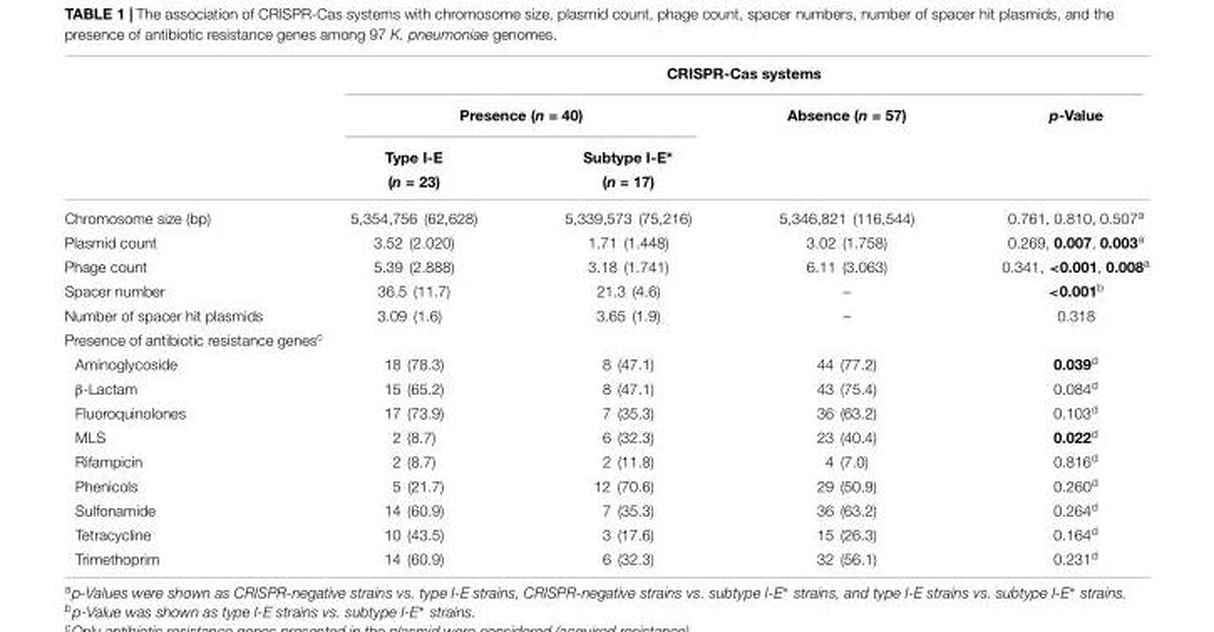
<table><thead><tr><td rowspan="4"></td><td colspan="4">CRISPR-Cas systems</td></tr><tr><td colspan="2">Presence (n = 40)</td><td rowspan="3">Absence (n = 57)</td><td rowspan="3">p-Value</td></tr><tr><td rowspan="2">Type I-E (n = 23)</td><td rowspan="2">Subtype I-E∗ (n = 17)</td></tr><tr></tr></thead><tbody><tr><td>Chromosome size (bp)</td><td>5,354,756 (62,628)</td><td>5,339,573 (75,216)</td><td>5,346,821 (116,544)</td><td>0.761, 0.810, 0.507<sup>a</sup></td></tr><tr><td>Plasmid count</td><td>3.52 (2.020)</td><td>1.71 (1.448)</td><td>3.02 (1.758)</td><td>0.269, 0.007, 0.003<sup>a</sup></td></tr><tr><td>Phage count</td><td>5.39 (2.888)</td><td>3.18 (1.741)</td><td>6.11 (3.063)</td><td>0.341, &lt;0.001, 0.008<sup>a</sup></td></tr><tr><td>Spacer number</td><td>36.5 (11.7)</td><td>21.3 (4.6)</td><td>–</td><td>&lt;0.001<sup>b</sup></td></tr><tr><td>Number of spacer hit plasmids</td><td>3.09 (1.6)</td><td>3.65 (1.9)</td><td>–</td><td>0.318</td></tr><tr><td colspan="5">Presence of antibiotic resistance genes<sup>c</sup></td></tr><tr><td>Aminoglycoside</td><td>18 (78.3)</td><td>8 (47.1)</td><td>44 (77.2)</td><td>0.039<sup>d</sup></td></tr><tr><td>β-Lactam</td><td>15 (65.2)</td><td>8 (47.1)</td><td>43 (75.4)</td><td>0.084<sup>d</sup></td></tr><tr><td>Fluoroquinolones</td><td>17 (73.9)</td><td>7 (35.3)</td><td>36 (63.2)</td><td>0.103<sup>d</sup></td></tr><tr><td>MLS</td><td>2 (8.7)</td><td>6 (32.3)</td><td>23 (40.4)</td><td>0.022<sup>d</sup></td></tr><tr><td>Rifampicin</td><td>2 (8.7)</td><td>2 (11.8)</td><td>4 (7.0)</td><td>0.816<sup>d</sup></td></tr><tr><td>Phenicols</td><td>5 (21.7)</td><td>12 (70.6)</td><td>29 (50.9)</td><td>0.260<sup>d</sup></td></tr><tr><td>Sulfonamide</td><td>14 (60.9)</td><td>7 (35.3)</td><td>36 (63.2)</td><td>0.264<sup>d</sup></td></tr><tr><td>Tetracycline</td><td>10 (43.5)</td><td>3 (17.6)</td><td>15 (26.3)</td><td>0.164<sup>d</sup></td></tr><tr><td>Trimethoprim</td><td>14 (60.9)</td><td>6 (32.3)</td><td>32 (56.1)</td><td>0.231<sup>d</sup></td></tr></tbody></table>